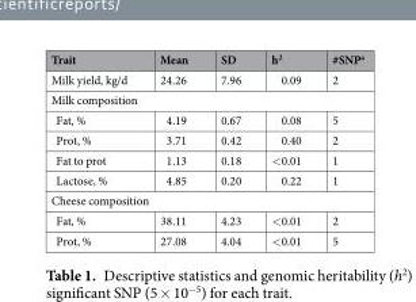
<table><thead><tr><td>Trait</td><td>Mean</td><td>SD</td><td>h<sup>2</sup></td><td>#SNP<sup>a</sup></td></tr></thead><tbody><tr><td>Milk yield, kg/d</td><td>24.26</td><td>7.96</td><td>0.09</td><td>2</td></tr><tr><td colspan="5">Milk composition</td></tr><tr><td>Fat, %</td><td>4.19</td><td>0.67</td><td>0.08</td><td>5</td></tr><tr><td>Prot, %</td><td>3.71</td><td>0.42</td><td>0.40</td><td>2</td></tr><tr><td>Fat to prot</td><td>1.13</td><td>0.18</td><td>&lt;0.01</td><td>1</td></tr><tr><td>Lactose, %</td><td>4.85</td><td>0.20</td><td>0.22</td><td>1</td></tr><tr><td colspan="5">Cheese composition</td></tr><tr><td>Fat, %</td><td>38.11</td><td>4.23</td><td>&lt;0.01</td><td>2</td></tr><tr><td>Prot, %</td><td>27.08</td><td>4.04</td><td>&lt;0.01</td><td>5</td></tr></tbody></table>